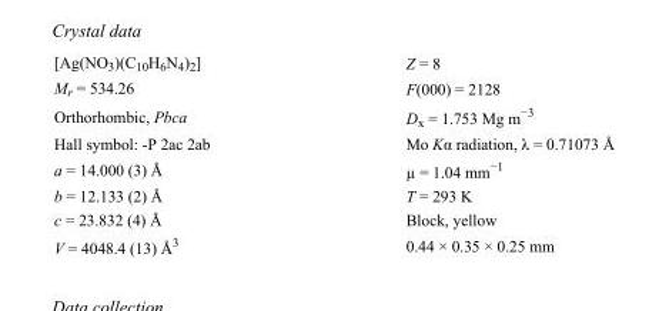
<table><tbody><tr><td>[Ag(NO<sub>3</sub>)(C<sub>10</sub>H<sub>6</sub>N<sub>4</sub>)<sub>2</sub>]</td><td>Z = 8</td></tr><tr><td>M<sub>r</sub> = 534.26</td><td>F(000) = 2128</td></tr><tr><td>Orthorhombic, Pbca</td><td>D<sub>x</sub> = 1.753 Mg m<sup>−3</sup></td></tr><tr><td>Hall symbol: -P 2ac 2ab</td><td>Mo Kα radiation, λ = 0.71073 Å</td></tr><tr><td>a = 14.000 (3) Å</td><td>µ = 1.04 mm<sup>−1</sup></td></tr><tr><td>b = 12.133 (2) Å</td><td>T = 293 K</td></tr><tr><td>c = 23.832 (4) Å</td><td>Block, yellow</td></tr><tr><td>V = 4048.4 (13) Å<sup>3</sup></td><td>0.44 × 0.35 × 0.25 mm</td></tr></tbody></table>